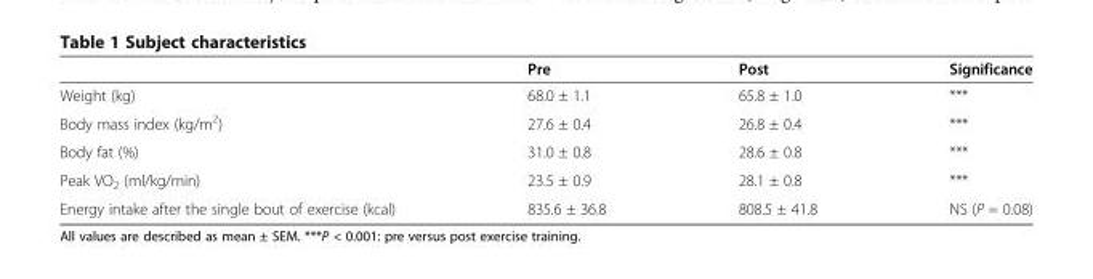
<table><thead><tr><td></td><td>Pre</td><td>Post</td><td>Significance</td></tr></thead><tbody><tr><td>Weight (kg)</td><td>68.0 ± 1.1</td><td>65.8 ± 1.0</td><td>***</td></tr><tr><td>Body mass index (kg/m<sup>2</sup>)</td><td>27.6 ± 0.4</td><td>26.8 ± 0.4</td><td>***</td></tr><tr><td>Body fat (%)</td><td>31.0 ± 0.8</td><td>28.6 ± 0.8</td><td>***</td></tr><tr><td>Peak VO<sub>2</sub> (ml/kg/min)</td><td>23.5 ± 0.9</td><td>28.1 ± 0.8</td><td>***</td></tr><tr><td>Energy intake after the single bout of exercise (kcal)</td><td>835.6 ± 36.8</td><td>808.5 ± 41.8</td><td>NS (P = 0.08)</td></tr></tbody></table>